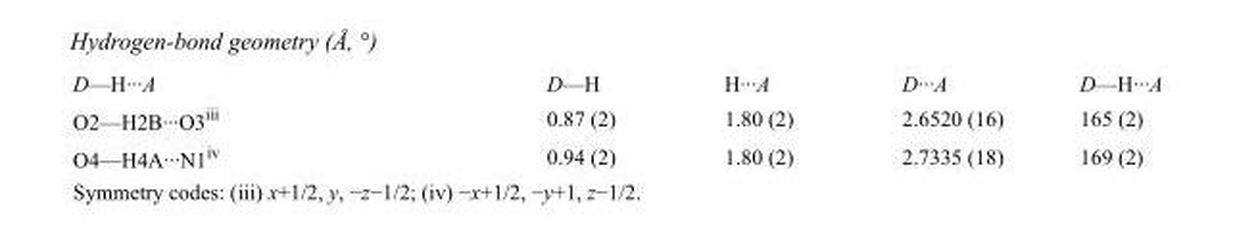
<table><tbody><tr><td>D—H···A</td><td>D—H</td><td>H···A</td><td>D···A</td><td>D—H···A</td></tr><tr><td>O2—H2B···O3<sup>iii</sup></td><td>0.87 (2)</td><td>1.80 (2)</td><td>2.6520 (16)</td><td>165 (2)</td></tr><tr><td>O4—H4A···N1<sup>iv</sup></td><td>0.94 (2)</td><td>1.80 (2)</td><td>2.7335 (18)</td><td>169 (2)</td></tr></tbody></table>